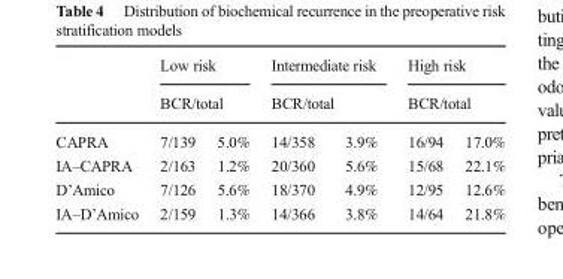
<table><thead><tr><td rowspan="3">CAPRA</td><td rowspan="2" colspan="2">Low risk BCR/total</td><td rowspan="2" colspan="2">Intermediate risk BCR/total</td><td rowspan="2" colspan="2">High risk BCR/total</td></tr><tr></tr><tr><td>7/139</td><td>5.0%</td><td>14/358</td><td>3.9%</td><td>16/94</td><td>17.0%</td></tr></thead><tbody><tr><td>IA–CAPRA</td><td>2/163</td><td>1.2%</td><td>20/360</td><td>5.6%</td><td>15/68</td><td>22.1%</td></tr><tr><td>D’Amico</td><td>7/126</td><td>5.6%</td><td>18/370</td><td>4.9%</td><td>12/95</td><td>12.6%</td></tr><tr><td>IA–D’Amico</td><td>2/159</td><td>1.3%</td><td>14/366</td><td>3.8%</td><td>14/64</td><td>21.8%</td></tr></tbody></table>